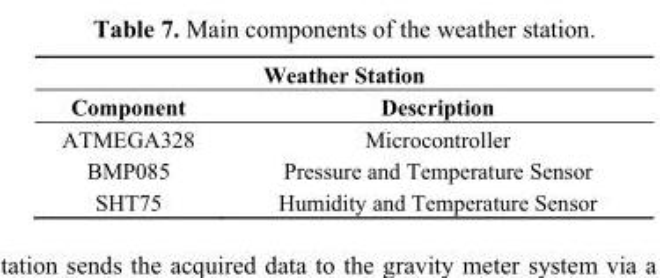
<table><thead><tr><td colspan="2">Weather Station</td></tr><tr><td>Component</td><td>Description</td></tr></thead><tbody><tr><td>ATMEGA328</td><td>Microcontroller</td></tr><tr><td>BMP085</td><td>Pressure and Temperature Sensor</td></tr><tr><td>SHT75</td><td>Humidity and Temperature Sensor</td></tr></tbody></table>